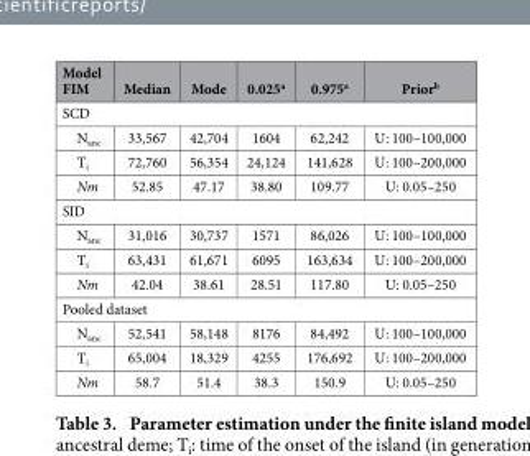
<table><thead><tr><td>Model FIM</td><td>Median</td><td>Mode</td><td>0.025<sup>a</sup></td><td>0.975<sup>a</sup></td><td>Prior<sup>b</sup></td></tr></thead><tbody><tr><td colspan="6">SCD</td></tr><tr><td>N<sub>anc</sub></td><td>33,567</td><td>42,704</td><td>1604</td><td>62,242</td><td>U: 100–100,000</td></tr><tr><td>T<sub>i</sub></td><td>72,760</td><td>56,354</td><td>24,124</td><td>141,628</td><td>U: 100–200,000</td></tr><tr><td>Nm</td><td>52.85</td><td>47.17</td><td>38.80</td><td>109.77</td><td>U: 0.05–250</td></tr><tr><td colspan="6">SID</td></tr><tr><td>N<sub>anc</sub></td><td>31,016</td><td>30,737</td><td>1571</td><td>86,026</td><td>U: 100–100,000</td></tr><tr><td>T<sub>i</sub></td><td>63,431</td><td>61,671</td><td>6095</td><td>163,634</td><td>U: 100–200,000</td></tr><tr><td>Nm</td><td>42.04</td><td>38.61</td><td>28.51</td><td>117.80</td><td>U: 0.05–250</td></tr><tr><td colspan="6">Pooled dataset</td></tr><tr><td>N<sub>anc</sub></td><td>52,541</td><td>58,148</td><td>8176</td><td>84,492</td><td>U: 100–100,000</td></tr><tr><td>T<sub>i</sub></td><td>65,004</td><td>18,329</td><td>4255</td><td>176,692</td><td>U: 100–200,000</td></tr><tr><td>Nm</td><td>58.7</td><td>51.4</td><td>38.3</td><td>150.9</td><td>U: 0.05–250</td></tr></tbody></table>